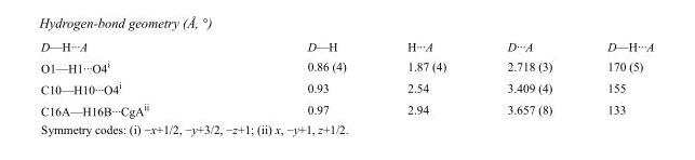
<table><tbody><tr><td>D—H···A</td><td>D—H</td><td>H···A</td><td>D···A</td><td>D—H···A</td></tr><tr><td>O1—H1···O4<sup>i</sup></td><td>0.86 (4)</td><td>1.87 (4)</td><td>2.718 (3)</td><td>170 (5)</td></tr><tr><td>C10—H10···O4<sup>i</sup></td><td>0.93</td><td>2.54</td><td>3.409 (4)</td><td>155</td></tr><tr><td>C16A—H16B···CgA<sup>ii</sup></td><td>0.97</td><td>2.94</td><td>3.657 (8)</td><td>133</td></tr></tbody></table>